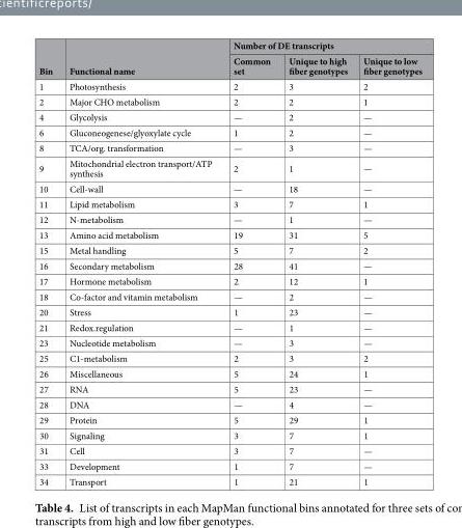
<table><thead><tr><td rowspan="2">Bin</td><td rowspan="2">Functional name</td><td colspan="3">Number of DE transcripts</td></tr><tr><td>Common set</td><td>Unique to high fiber genotypes</td><td>Unique to low fiber genotypes</td></tr></thead><tbody><tr><td>1</td><td>Photosynthesis</td><td>2</td><td>3</td><td>2</td></tr><tr><td>2</td><td>Major CHO metabolism</td><td>2</td><td>2</td><td>1</td></tr><tr><td>4</td><td>Glycolysis</td><td>—</td><td>2</td><td>—</td></tr><tr><td>6</td><td>Gluconeogenese/glyoxylate cycle</td><td>1</td><td>2</td><td>—</td></tr><tr><td>8</td><td>TCA/org. transformation</td><td>—</td><td>3</td><td>—</td></tr><tr><td>9</td><td>Mitochondrial electron transport/ATP synthesis</td><td>2</td><td>1</td><td>—</td></tr><tr><td>10</td><td>Cell-wall</td><td>—</td><td>18</td><td>—</td></tr><tr><td>11</td><td>Lipid metabolism</td><td>3</td><td>7</td><td>1</td></tr><tr><td>12</td><td>N-metabolism</td><td>—</td><td>1</td><td>—</td></tr><tr><td>13</td><td>Amino acid metabolism</td><td>19</td><td>31</td><td>5</td></tr><tr><td>15</td><td>Metal handling</td><td>5</td><td>7</td><td>2</td></tr><tr><td>16</td><td>Secondary metabolism</td><td>28</td><td>41</td><td>—</td></tr><tr><td>17</td><td>Hormone metabolism</td><td>2</td><td>12</td><td>1</td></tr><tr><td>18</td><td>Co-factor and vitamin metabolism</td><td>—</td><td>2</td><td>—</td></tr><tr><td>20</td><td>Stress</td><td>1</td><td>23</td><td>—</td></tr><tr><td>21</td><td>Redox.regulation</td><td>—</td><td>1</td><td>—</td></tr><tr><td>23</td><td>Nucleotide metabolism</td><td>—</td><td>3</td><td>—</td></tr><tr><td>25</td><td>C1-metabolism</td><td>2</td><td>3</td><td>2</td></tr><tr><td>26</td><td>Miscellaneous</td><td>5</td><td>24</td><td>1</td></tr><tr><td>27</td><td>RNA</td><td>5</td><td>23</td><td>—</td></tr><tr><td>28</td><td>DNA</td><td>—</td><td>4</td><td>—</td></tr><tr><td>29</td><td>Protein</td><td>5</td><td>29</td><td>1</td></tr><tr><td>30</td><td>Signaling</td><td>3</td><td>7</td><td>1</td></tr><tr><td>31</td><td>Cell</td><td>3</td><td>7</td><td>—</td></tr><tr><td>33</td><td>Development</td><td>1</td><td>7</td><td>—</td></tr><tr><td>34</td><td>Transport</td><td>1</td><td>21</td><td>1</td></tr></tbody></table>